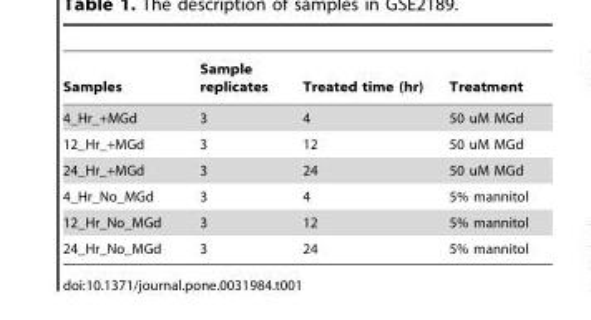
<table><thead><tr><td>Samples</td><td>Sample replicates</td><td>Treated time (hr)</td><td>Treatment</td></tr></thead><tbody><tr><td>4_Hr_+MGd</td><td>3</td><td>4</td><td>50 uM MGd</td></tr><tr><td>12_Hr_+MGd</td><td>3</td><td>12</td><td>50 uM MGd</td></tr><tr><td>24_Hr_+MGd</td><td>3</td><td>24</td><td>50 uM MGd</td></tr><tr><td>4_Hr_No_MGd</td><td>3</td><td>4</td><td>5% mannitol</td></tr><tr><td>12_Hr_No_MGd</td><td>3</td><td>12</td><td>5% mannitol</td></tr><tr><td>24_Hr_No_MGd</td><td>3</td><td>24</td><td>5% mannitol</td></tr></tbody></table>